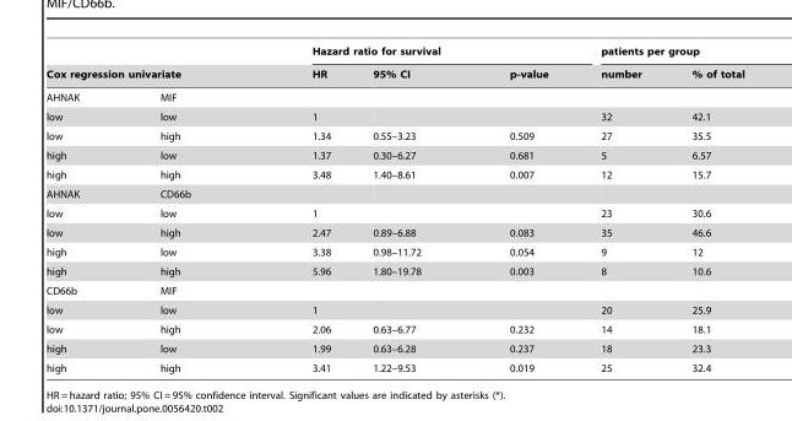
<table><thead><tr><td></td><td></td><td colspan="3">Hazard ratio for survival</td><td colspan="2">patients per group</td></tr><tr><td colspan="2">Cox regression univariate</td><td>HR</td><td>95% CI</td><td>p-value</td><td>number</td><td>% of total</td></tr></thead><tbody><tr><td>AHNAK</td><td>MIF</td><td></td><td></td><td></td><td></td><td></td></tr><tr><td>low</td><td>low</td><td>1</td><td></td><td></td><td>32</td><td>42.1</td></tr><tr><td>low</td><td>high</td><td>1.34</td><td>0.55–3.23</td><td>0.509</td><td>27</td><td>35.5</td></tr><tr><td>high</td><td>low</td><td>1.37</td><td>0.30–6.27</td><td>0.681</td><td>5</td><td>6.57</td></tr><tr><td>high</td><td>high</td><td>3.48</td><td>1.40–8.61</td><td>0.007</td><td>12</td><td>15.7</td></tr><tr><td>AHNAK</td><td>CD66b</td><td></td><td></td><td></td><td></td><td></td></tr><tr><td>low</td><td>low</td><td>1</td><td></td><td></td><td>23</td><td>30.6</td></tr><tr><td>low</td><td>high</td><td>2.47</td><td>0.89–6.88</td><td>0.083</td><td>35</td><td>46.6</td></tr><tr><td>high</td><td>low</td><td>3.38</td><td>0.98–11.72</td><td>0.054</td><td>9</td><td>12</td></tr><tr><td>high</td><td>high</td><td>5.96</td><td>1.80–19.78</td><td>0.003</td><td>8</td><td>10.6</td></tr><tr><td>CD66b</td><td>MIF</td><td></td><td></td><td></td><td></td><td></td></tr><tr><td>low</td><td>low</td><td>1</td><td></td><td></td><td>20</td><td>25.9</td></tr><tr><td>low</td><td>high</td><td>2.06</td><td>0.63–6.77</td><td>0.232</td><td>14</td><td>18.1</td></tr><tr><td>high</td><td>low</td><td>1.99</td><td>0.63–6.28</td><td>0.237</td><td>18</td><td>23.3</td></tr><tr><td>high</td><td>high</td><td>3.41</td><td>1.22–9.53</td><td>0.019</td><td>25</td><td>32.4</td></tr></tbody></table>